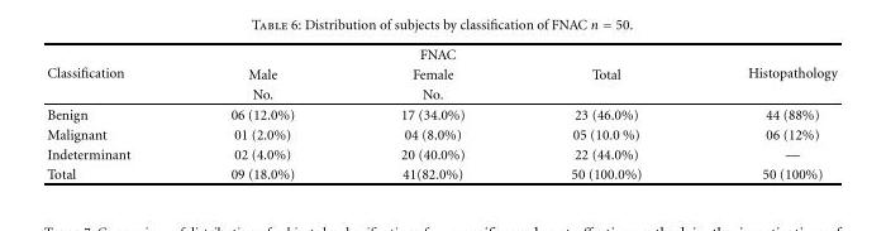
<table><thead><tr><td rowspan="3">Classification</td><td colspan="3">FNAC</td><td rowspan="3">Histopathology</td></tr><tr><td rowspan="2">Male No.</td><td rowspan="2">Female No.</td><td rowspan="2">Total</td></tr><tr></tr></thead><tbody><tr><td>Benign</td><td>06 (12.0%)</td><td>17 (34.0%)</td><td>23 (46.0%)</td><td>44 (88%)</td></tr><tr><td>Malignant</td><td>01 (2.0%)</td><td>04 (8.0%)</td><td>05 (10.0 %)</td><td>06 (12%)</td></tr><tr><td>Indeterminant</td><td>02 (4.0%)</td><td>20 (40.0%)</td><td>22 (44.0%)</td><td>—</td></tr><tr><td>Total</td><td>09 (18.0%)</td><td>41(82.0%)</td><td>50 (100.0%)</td><td>50 (100%)</td></tr></tbody></table>